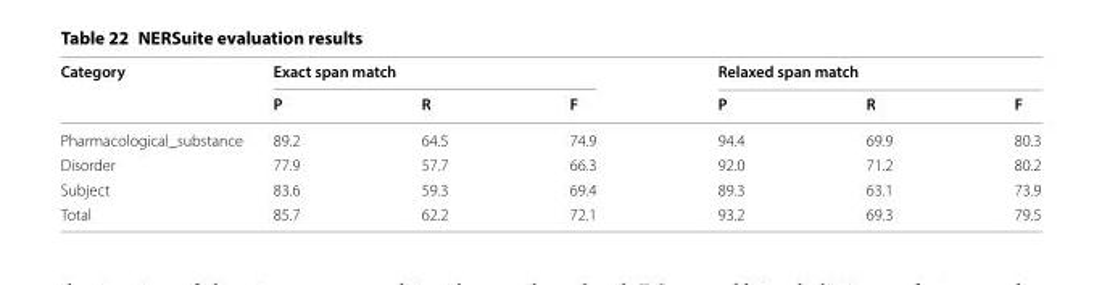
<table><thead><tr><td rowspan="2">Category</td><td colspan="3">Exact span match</td><td colspan="3">Relaxed span match</td></tr><tr><td>P</td><td>R</td><td>F</td><td>P</td><td>R</td><td>F</td></tr></thead><tbody><tr><td>Pharmacological_substance</td><td>89.2</td><td>64.5</td><td>74.9</td><td>94.4</td><td>69.9</td><td>80.3</td></tr><tr><td>Disorder</td><td>77.9</td><td>57.7</td><td>66.3</td><td>92.0</td><td>71.2</td><td>80.2</td></tr><tr><td>Subject</td><td>83.6</td><td>59.3</td><td>69.4</td><td>89.3</td><td>63.1</td><td>73.9</td></tr><tr><td>Total</td><td>85.7</td><td>62.2</td><td>72.1</td><td>93.2</td><td>69.3</td><td>79.5</td></tr></tbody></table>